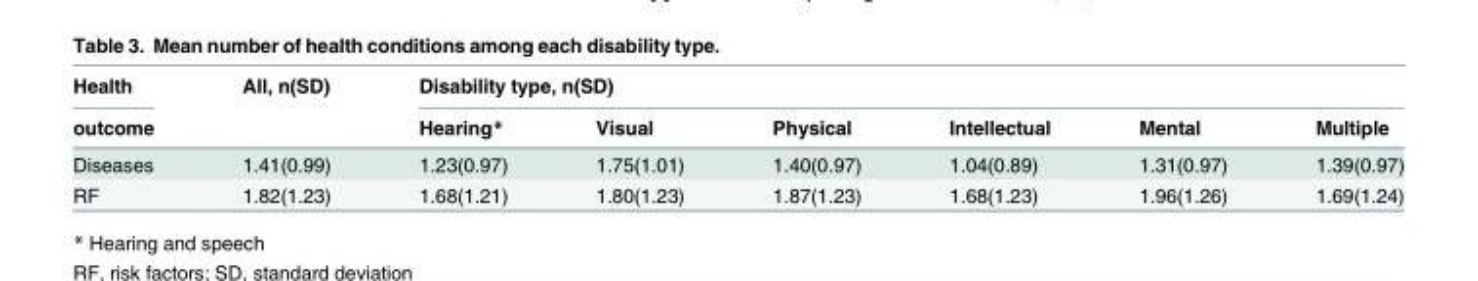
<table><thead><tr><td rowspan="2">Health outcome</td><td rowspan="2">All, n(SD)</td><td colspan="6">Disability type, n(SD)</td></tr><tr><td>Hearing*</td><td>Visual</td><td>Physical</td><td>Intellectual</td><td>Mental</td><td>Multiple</td></tr></thead><tbody><tr><td>Diseases</td><td>1.41(0.99)</td><td>1.23(0.97)</td><td>1.75(1.01)</td><td>1.40(0.97)</td><td>1.04(0.89)</td><td>1.31(0.97)</td><td>1.39(0.97)</td></tr><tr><td>RF</td><td>1.82(1.23)</td><td>1.68(1.21)</td><td>1.80(1.23)</td><td>1.87(1.23)</td><td>1.68(1.23)</td><td>1.96(1.26)</td><td>1.69(1.24)</td></tr></tbody></table>